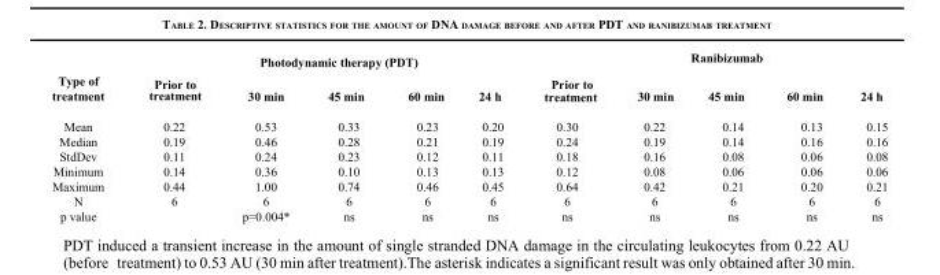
<table><thead><tr><td rowspan="2">Type of treatment</td><td colspan="5">Photodynamic therapy (PDT)</td><td colspan="5">Ranibizumab</td></tr><tr><td>Prior to treatment</td><td>30 min</td><td>45 min</td><td>60 min</td><td>24 h</td><td>treatment Prior to</td><td>30 min</td><td>45 min</td><td>60 min</td><td>24 h</td></tr></thead><tbody><tr><td>Mean</td><td>0.22</td><td>0.53</td><td>0.33</td><td>0.23</td><td>0.20</td><td>0.30</td><td>0.22</td><td>0.14</td><td>0.13</td><td>0.15</td></tr><tr><td>Median</td><td>0.19</td><td>0.46</td><td>0.28</td><td>0.21</td><td>0.19</td><td>0.24</td><td>0.19</td><td>0.14</td><td>0.16</td><td>0.16</td></tr><tr><td>StdDev</td><td>0.11</td><td>0.24</td><td>0.23</td><td>0.12</td><td>0.11</td><td>0.18</td><td>0.16</td><td>0.08</td><td>0.06</td><td>0.08</td></tr><tr><td>Minimum</td><td>0.14</td><td>0.36</td><td>0.10</td><td>0.13</td><td>0.13</td><td>0.12</td><td>0.08</td><td>0.06</td><td>0.06</td><td>0.06</td></tr><tr><td>Maximum</td><td>0.44</td><td>1.00</td><td>0.74</td><td>0.46</td><td>0.45</td><td>0.64</td><td>0.42</td><td>0.21</td><td>0.20</td><td>0.21</td></tr><tr><td>N</td><td>6</td><td>6</td><td>6</td><td>6</td><td>6</td><td>6</td><td>6</td><td>6</td><td>6</td><td>6</td></tr><tr><td>p value</td><td></td><td>p=0.004*</td><td>ns</td><td>ns</td><td>ns</td><td>ns</td><td>ns</td><td>ns</td><td>ns</td><td>ns</td></tr></tbody></table>